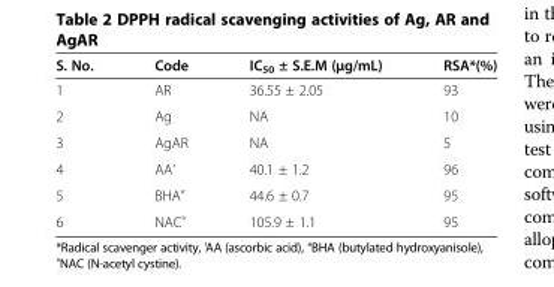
<table><thead><tr><td>S. No.</td><td>Code</td><td>IC50 ± S.E.M (μg/mL)</td><td>RSA*(%)</td></tr></thead><tbody><tr><td>1</td><td>AR</td><td>36.55 ± 2.05</td><td>93</td></tr><tr><td>2</td><td>Ag</td><td>NA</td><td>10</td></tr><tr><td>3</td><td>AgAR</td><td>NA</td><td>5</td></tr><tr><td>4</td><td>AA’</td><td>40.1 ± 1.2</td><td>96</td></tr><tr><td>5</td><td>BHA”</td><td>44.6 ± 0.7</td><td>95</td></tr><tr><td>6</td><td>NAC<sup>»</sup></td><td>105.9 ± 1.1</td><td>95</td></tr></tbody></table>